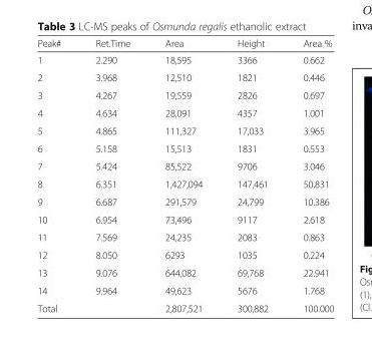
<table><thead><tr><td>Peak#</td><td>Ret.Time</td><td>Area</td><td>Height</td><td>Area %</td></tr></thead><tbody><tr><td>1</td><td>2.290</td><td>18,595</td><td>3366</td><td>0.662</td></tr><tr><td>2</td><td>3.968</td><td>12,510</td><td>1821</td><td>0.446</td></tr><tr><td>3</td><td>4.267</td><td>19,559</td><td>2826</td><td>0.697</td></tr><tr><td>4</td><td>4.634</td><td>28,091</td><td>4357</td><td>1.001</td></tr><tr><td>5</td><td>4.865</td><td>111,327</td><td>17,033</td><td>3.965</td></tr><tr><td>6</td><td>5.158</td><td>15,513</td><td>1831</td><td>0.553</td></tr><tr><td>7</td><td>5.424</td><td>85,522</td><td>9706</td><td>3.046</td></tr><tr><td>8</td><td>6.351</td><td>1,427,094</td><td>147,461</td><td>50.831</td></tr><tr><td>9</td><td>6.687</td><td>291,579</td><td>24,799</td><td>10.386</td></tr><tr><td>10</td><td>6.954</td><td>73,496</td><td>9117</td><td>2.618</td></tr><tr><td>11</td><td>7.569</td><td>24,235</td><td>2083</td><td>0.863</td></tr><tr><td>12</td><td>8.050</td><td>6293</td><td>1035</td><td>0.224</td></tr><tr><td>13</td><td>9.076</td><td>644,082</td><td>69,768</td><td>22.941</td></tr><tr><td>14</td><td>9.964</td><td>49,623</td><td>5676</td><td>1.768</td></tr><tr><td>Total</td><td></td><td>2,807,521</td><td>300,882</td><td>100.000</td></tr></tbody></table>